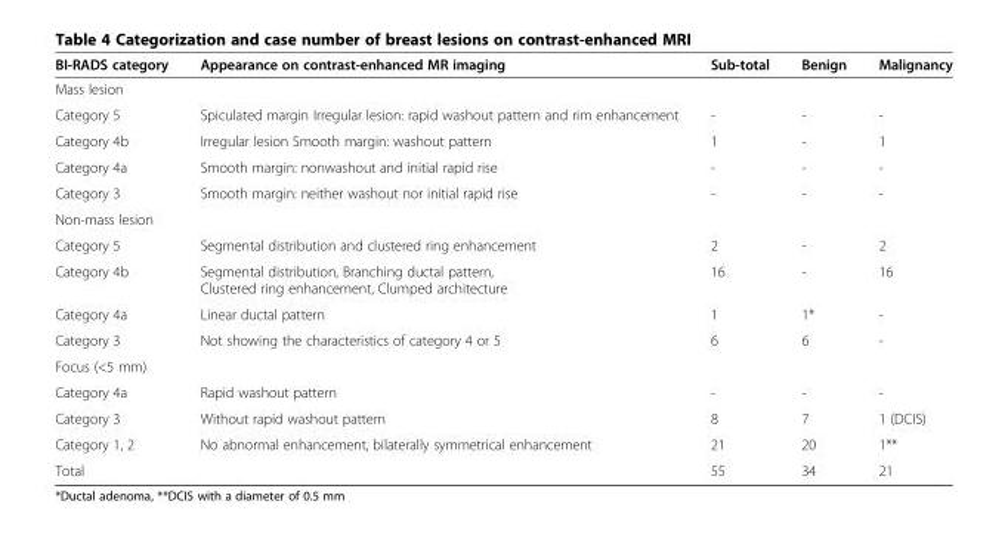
<table><thead><tr><td>BI-RADS category</td><td>Appearance on contrast-enhanced MR imaging</td><td>Sub-total</td><td>Benign</td><td>Malignancy</td></tr></thead><tbody><tr><td colspan="5">Mass lesion</td></tr><tr><td>Category 5</td><td>Spiculated margin Irregular lesion: rapid washout pattern and rim enhancement</td><td>-</td><td>-</td><td>-</td></tr><tr><td>Category 4b</td><td>Irregular lesion Smooth margin: washout pattern</td><td>1</td><td>-</td><td>1</td></tr><tr><td>Category 4a</td><td>Smooth margin: nonwashout and initial rapid rise</td><td>-</td><td>-</td><td>-</td></tr><tr><td>Category 3</td><td>Smooth margin: neither washout nor initial rapid rise</td><td>-</td><td>-</td><td>-</td></tr><tr><td colspan="5">Non-mass lesion</td></tr><tr><td>Category 5</td><td>Segmental distribution and clustered ring enhancement</td><td>2</td><td>-</td><td>2</td></tr><tr><td>Category 4b</td><td>Segmental distribution, Branching ductal pattern, Clustered ring enhancement, Clumped architecture</td><td>16</td><td>-</td><td>16</td></tr><tr><td>Category 4a</td><td>Linear ductal pattern</td><td>1</td><td>1*</td><td>-</td></tr><tr><td>Category 3</td><td>Not showing the characteristics of category 4 or 5</td><td>6</td><td>6</td><td>-</td></tr><tr><td colspan="5">Focus (&lt;5 mm)</td></tr><tr><td>Category 4a</td><td>Rapid washout pattern</td><td>-</td><td>-</td><td>-</td></tr><tr><td>Category 3</td><td>Without rapid washout pattern</td><td>8</td><td>7</td><td>1 (DCIS)</td></tr><tr><td>Category 1, 2</td><td>No abnormal enhancement, bilaterally symmetrical enhancement</td><td>21</td><td>20</td><td>1**</td></tr><tr><td colspan="2">Total</td><td>55</td><td>34</td><td>21</td></tr></tbody></table>